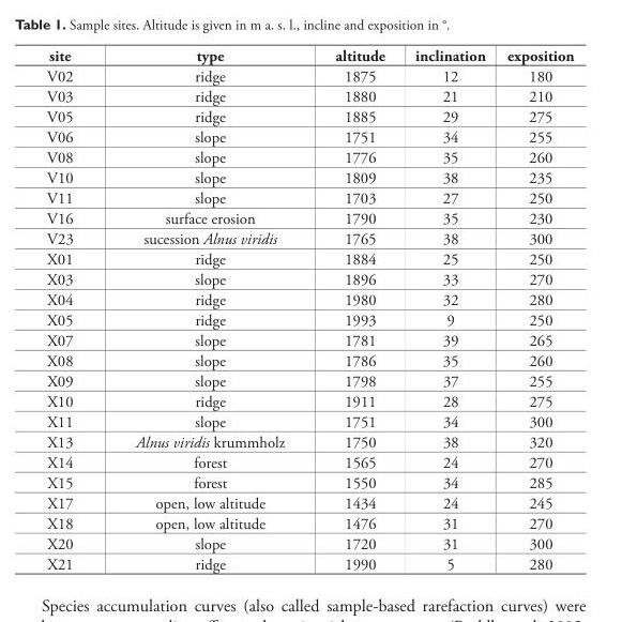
<table><thead><tr><td>site</td><td>type</td><td>altitude</td><td>inclination</td><td>exposition</td></tr></thead><tbody><tr><td>V02</td><td>ridge</td><td>1875</td><td>12</td><td>180</td></tr><tr><td>V03</td><td>ridge</td><td>1880</td><td>21</td><td>210</td></tr><tr><td>V05</td><td>ridge</td><td>1885</td><td>29</td><td>275</td></tr><tr><td>V06</td><td>slope</td><td>1751</td><td>34</td><td>255</td></tr><tr><td>V08</td><td>slope</td><td>1776</td><td>35</td><td>260</td></tr><tr><td>V10</td><td>slope</td><td>1809</td><td>38</td><td>235</td></tr><tr><td>V11</td><td>slope</td><td>1703</td><td>27</td><td>250</td></tr><tr><td>V16</td><td>surface erosion</td><td>1790</td><td>35</td><td>230</td></tr><tr><td>V23</td><td>sucession Alnus viridis</td><td>1765</td><td>38</td><td>300</td></tr><tr><td>X01</td><td>ridge</td><td>1884</td><td>25</td><td>250</td></tr><tr><td>X03</td><td>slope</td><td>1896</td><td>33</td><td>270</td></tr><tr><td>X04</td><td>ridge</td><td>1980</td><td>32</td><td>280</td></tr><tr><td>X05</td><td>ridge</td><td>1993</td><td>9</td><td>250</td></tr><tr><td>X07</td><td>slope</td><td>1781</td><td>39</td><td>265</td></tr><tr><td>X08</td><td>slope</td><td>1786</td><td>35</td><td>260</td></tr><tr><td>X09</td><td>slope</td><td>1798</td><td>37</td><td>255</td></tr><tr><td>X10</td><td>ridge</td><td>1911</td><td>28</td><td>275</td></tr><tr><td>X11</td><td>slope</td><td>1751</td><td>34</td><td>300</td></tr><tr><td>X13</td><td>Alnus viridis krummholz</td><td>1750</td><td>38</td><td>320</td></tr><tr><td>X14</td><td>forest</td><td>1565</td><td>24</td><td>270</td></tr><tr><td>X15</td><td>forest</td><td>1550</td><td>34</td><td>285</td></tr><tr><td>X17</td><td>open, low altitude</td><td>1434</td><td>24</td><td>245</td></tr><tr><td>X18</td><td>open, low altitude</td><td>1476</td><td>31</td><td>270</td></tr><tr><td>X20</td><td>slope</td><td>1720</td><td>31</td><td>300</td></tr><tr><td>X21</td><td>ridge</td><td>1990</td><td>5</td><td>280</td></tr></tbody></table>